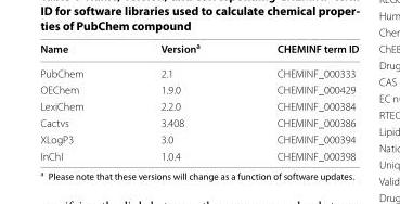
<table><thead><tr><td>Name</td><td>Version<sup>a</sup></td><td>CHEMINF term ID</td></tr></thead><tbody><tr><td>PubChem</td><td>2.1</td><td>CHEMINF_000333</td></tr><tr><td>OEChem</td><td>1.9.0</td><td>CHEMINF_000429</td></tr><tr><td>LexiChem</td><td>2.2.0</td><td>CHEMINF_000384</td></tr><tr><td>Cactvs</td><td>3.408</td><td>CHEMINF_000386</td></tr><tr><td>XLogP3</td><td>3.0</td><td>CHEMINF_000394</td></tr><tr><td>InChI</td><td>1.0.4</td><td>CHEMINF_000398</td></tr></tbody></table>